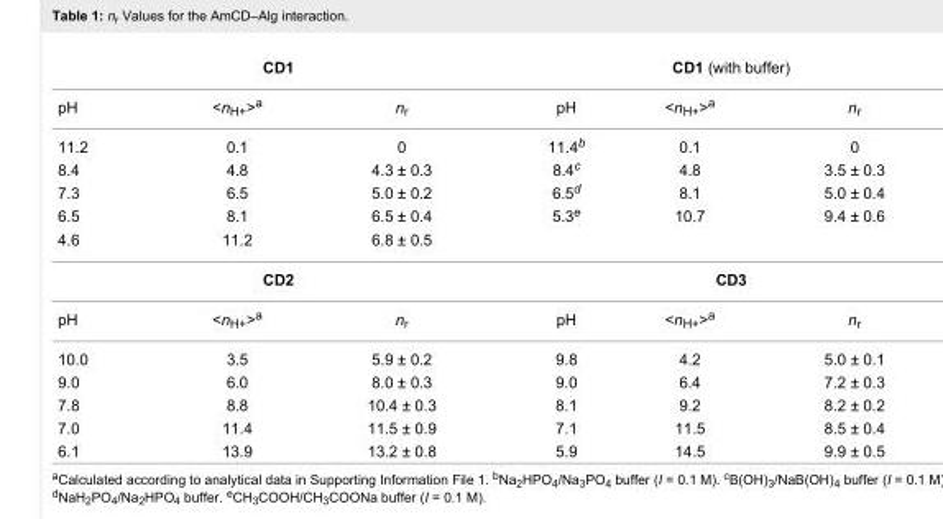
<table><tbody><tr><td colspan="3">CD1</td><td colspan="3">CD1 (with buffer)</td></tr><tr><td>pH</td><td>&lt;n<sub>H+</sub>&gt;<sup>a</sup></td><td>n<sub>r</sub></td><td>pH</td><td>&lt;n<sub>H+</sub>&gt;<sup>a</sup></td><td>n<sub>r</sub></td></tr><tr><td>11.2</td><td>0.1</td><td>0</td><td>11.4<sup>b</sup></td><td>0.1</td><td>0</td></tr><tr><td>8.4</td><td>4.8</td><td>4.3 ± 0.3</td><td>8.4<sup>c</sup></td><td>4.8</td><td>3.5 ± 0.3</td></tr><tr><td>7.3</td><td>6.5</td><td>5.0 ± 0.2</td><td>6.5<sup>d</sup></td><td>8.1</td><td>5.0 ± 0.4</td></tr><tr><td>6.5</td><td>8.1</td><td>6.5 ± 0.4</td><td>5.3<sup>e</sup></td><td>10.7</td><td>9.4 ± 0.6</td></tr><tr><td>4.6</td><td>11.2</td><td>6.8 ± 0.5</td><td></td><td></td><td></td></tr><tr><td colspan="3">CD2</td><td colspan="3">CD3</td></tr><tr><td>pH</td><td>&lt;n<sub>H+</sub>&gt;<sup>a</sup></td><td>n<sub>r</sub></td><td>pH</td><td>&lt;n<sub>H+</sub>&gt;<sup>a</sup></td><td>n<sub>r</sub></td></tr><tr><td>10.0</td><td>3.5</td><td>5.9 ± 0.2</td><td>9.8</td><td>4.2</td><td>5.0 ± 0.1</td></tr><tr><td>9.0</td><td>6.0</td><td>8.0 ± 0.3</td><td>9.0</td><td>6.4</td><td>7.2 ± 0.3</td></tr><tr><td>7.8</td><td>8.8</td><td>10.4 ± 0.3</td><td>8.1</td><td>9.2</td><td>8.2 ± 0.2</td></tr><tr><td>7.0</td><td>11.4</td><td>11.5 ± 0.9</td><td>7.1</td><td>11.5</td><td>8.5 ± 0.4</td></tr><tr><td>6.1</td><td>13.9</td><td>13.2 ± 0.8</td><td>5.9</td><td>14.5</td><td>9.9 ± 0.5</td></tr></tbody></table>